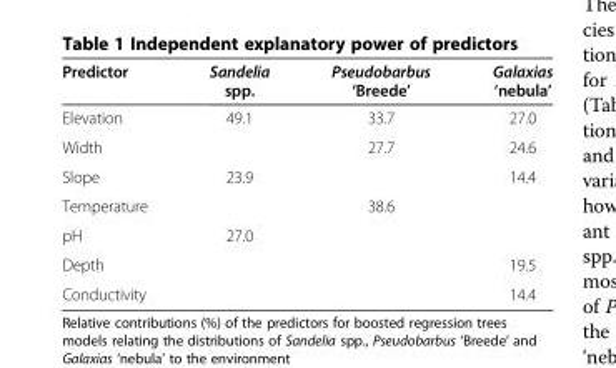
<table><thead><tr><td>Predictor</td><td>Sandelia spp.</td><td>Pseudobarbus ‘Breede’</td><td>Galaxias ‘nebula’</td></tr></thead><tbody><tr><td>Elevation</td><td>49.1</td><td>33.7</td><td>27.0</td></tr><tr><td>Width</td><td></td><td>27.7</td><td>24.6</td></tr><tr><td>Slope</td><td>23.9</td><td></td><td>14.4</td></tr><tr><td>Temperature</td><td></td><td>38.6</td><td></td></tr><tr><td>pH</td><td>27.0</td><td></td><td></td></tr><tr><td>Depth</td><td></td><td></td><td>19.5</td></tr><tr><td>Conductivity</td><td></td><td></td><td>14.4</td></tr></tbody></table>